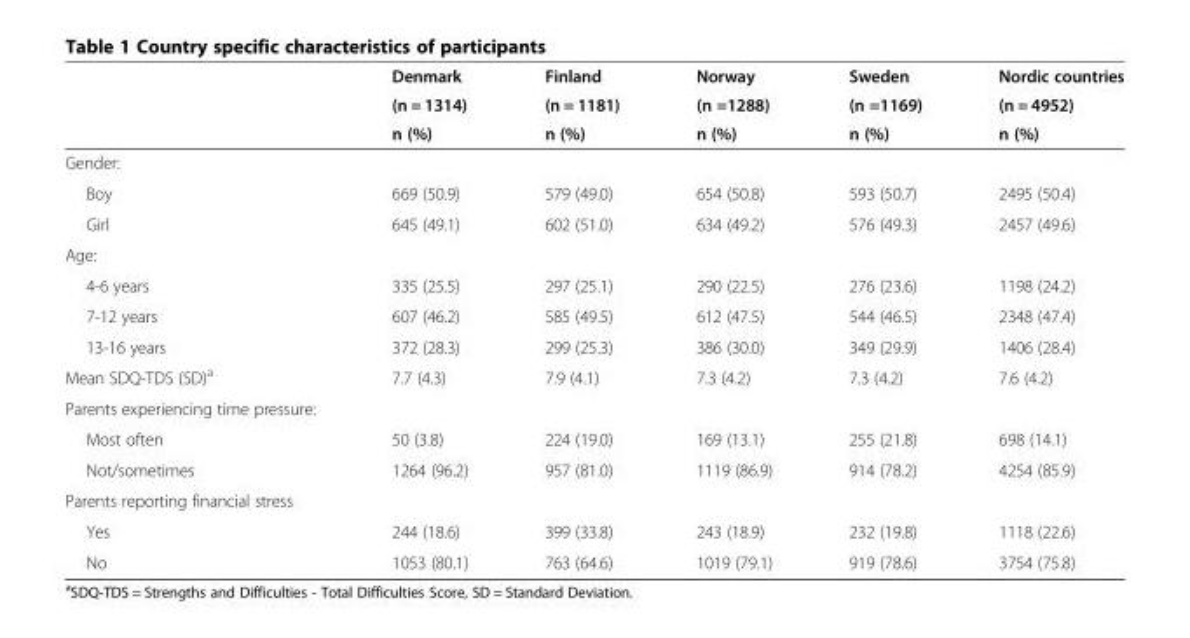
<table><thead><tr><td rowspan="3"></td><td rowspan="3">Denmark (n = 1314) n (%)</td><td rowspan="3">Finland (n = 1181) n (%)</td><td rowspan="3">Norway (n =1288) n (%)</td><td rowspan="3">Sweden (n =1169) n (%)</td><td rowspan="3">Nordic countries (n = 4952) n (%)</td></tr><tr></tr><tr></tr></thead><tbody><tr><td colspan="6">Gender:</td></tr><tr><td>Boy</td><td>669 (50.9)</td><td>579 (49.0)</td><td>654 (50.8)</td><td>593 (50.7)</td><td>2495 (50.4)</td></tr><tr><td>Girl</td><td>645 (49.1)</td><td>602 (51.0)</td><td>634 (49.2)</td><td>576 (49.3)</td><td>2457 (49.6)</td></tr><tr><td colspan="6">Age:</td></tr><tr><td>4-6 years</td><td>335 (25.5)</td><td>297 (25.1)</td><td>290 (22.5)</td><td>276 (23.6)</td><td>1198 (24.2)</td></tr><tr><td>7-12 years</td><td>607 (46.2)</td><td>585 (49.5)</td><td>612 (47.5)</td><td>544 (46.5)</td><td>2348 (47.4)</td></tr><tr><td>13-16 years</td><td>372 (28.3)</td><td>299 (25.3)</td><td>386 (30.0)</td><td>349 (29.9)</td><td>1406 (28.4)</td></tr><tr><td>Mean SDQ-TDS (SD)<sup>a</sup></td><td>7.7 (4.3)</td><td>7.9 (4.1)</td><td>7.3 (4.2)</td><td>7.3 (4.2)</td><td>7.6 (4.2)</td></tr><tr><td colspan="6">Parents experiencing time pressure:</td></tr><tr><td>Most often</td><td>50 (3.8)</td><td>224 (19.0)</td><td>169 (13.1)</td><td>255 (21.8)</td><td>698 (14.1)</td></tr><tr><td>Not/sometimes</td><td>1264 (96.2)</td><td>957 (81.0)</td><td>1119 (86.9)</td><td>914 (78.2)</td><td>4254 (85.9)</td></tr><tr><td colspan="6">Parents reporting financial stress</td></tr><tr><td>Yes</td><td>244 (18.6)</td><td>399 (33.8)</td><td>243 (18.9)</td><td>232 (19.8)</td><td>1118 (22.6)</td></tr><tr><td>No</td><td>1053 (80.1)</td><td>763 (64.6)</td><td>1019 (79.1)</td><td>919 (78.6)</td><td>3754 (75.8)</td></tr></tbody></table>